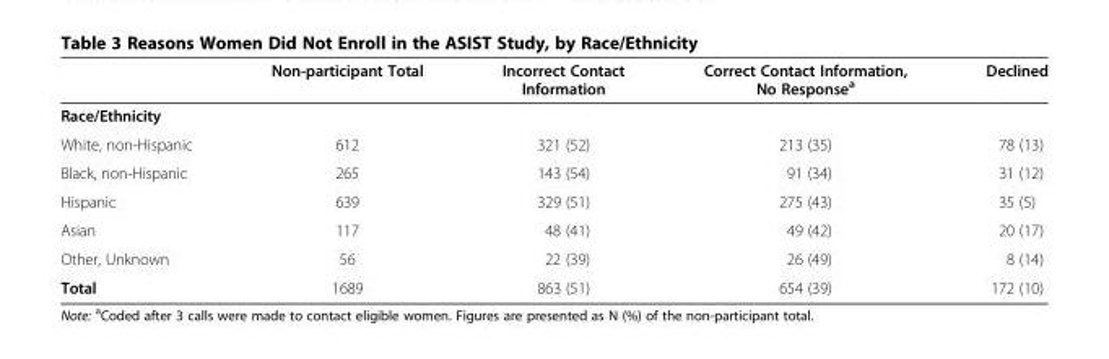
<table><thead><tr><td></td><td>Non-participant Total</td><td>Incorrect Contact Information</td><td>Correct Contact Information, No Response<sup>a</sup></td><td>Declined</td></tr></thead><tbody><tr><td colspan="5">Race/Ethnicity</td></tr><tr><td>White, non-Hispanic</td><td>612</td><td>321 (52)</td><td>213 (35)</td><td>78 (13)</td></tr><tr><td>Black, non-Hispanic</td><td>265</td><td>143 (54)</td><td>91 (34)</td><td>31 (12)</td></tr><tr><td>Hispanic</td><td>639</td><td>329 (51)</td><td>275 (43)</td><td>35 (5)</td></tr><tr><td>Asian</td><td>117</td><td>48 (41)</td><td>49 (42)</td><td>20 (17)</td></tr><tr><td>Other, Unknown</td><td>56</td><td>22 (39)</td><td>26 (49)</td><td>8 (14)</td></tr><tr><td>Total</td><td>1689</td><td>863 (51)</td><td>654 (39)</td><td>172 (10)</td></tr></tbody></table>